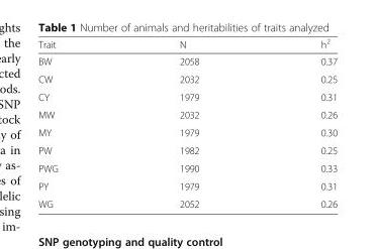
<table><thead><tr><td>Trait</td><td>N</td><td>h<sup>2</sup></td></tr></thead><tbody><tr><td>BW</td><td>2058</td><td>0.37</td></tr><tr><td>CW</td><td>2032</td><td>0.25</td></tr><tr><td>CY</td><td>1979</td><td>0.31</td></tr><tr><td>MW</td><td>2032</td><td>0.26</td></tr><tr><td>MY</td><td>1979</td><td>0.30</td></tr><tr><td>PW</td><td>1982</td><td>0.25</td></tr><tr><td>PWG</td><td>1990</td><td>0.33</td></tr><tr><td>PY</td><td>1979</td><td>0.31</td></tr><tr><td>WG</td><td>2052</td><td>0.26</td></tr></tbody></table>